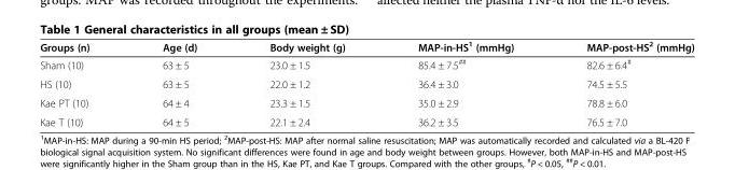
<table><thead><tr><td>Groups (n)</td><td>Age (d)</td><td>Body weight (g)</td><td>MAP-in-HS<sup>1</sup> (mmHg)</td><td>MAP-post-HS<sup>2</sup> (mmHg)</td></tr></thead><tbody><tr><td>Sham (10)</td><td>63 ± 5</td><td>23.0 ± 1.5</td><td>85.4 ± 7.5<sup>##</sup></td><td>82.6 ± 6.4<sup>#</sup></td></tr><tr><td>HS (10)</td><td>63 ± 5</td><td>22.0 ± 1.2</td><td>36.4 ± 3.0</td><td>74.5 ± 5.5</td></tr><tr><td>Kae PT (10)</td><td>64 ± 4</td><td>23.3 ± 1.5</td><td>35.0 ± 2.9</td><td>78.8 ± 6.0</td></tr><tr><td>Kae T (10)</td><td>64 ± 5</td><td>22.1 ± 2.4</td><td>36.2 ± 3.5</td><td>76.5 ± 7.0</td></tr></tbody></table>